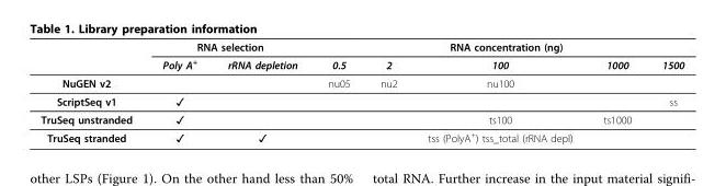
<table><thead><tr><td rowspan="2"></td><td colspan="2">RNA selection</td><td colspan="5">RNA concentration (ng)</td></tr><tr><td>Poly A<sup>+</sup></td><td>rRNA depletion</td><td>0.5</td><td>2</td><td>100</td><td>1000</td><td>1500</td></tr></thead><tbody><tr><td>NuGEN v2</td><td></td><td></td><td>nu05</td><td>nu2</td><td>nu100</td><td></td><td></td></tr><tr><td>ScriptSeq v1</td><td>✓</td><td></td><td></td><td></td><td></td><td></td><td>ss</td></tr><tr><td>TruSeq unstranded</td><td>✓</td><td></td><td></td><td></td><td>ts100</td><td>ts1000</td><td></td></tr><tr><td>TruSeq stranded</td><td>✓</td><td>✓</td><td></td><td></td><td>tss (PolyA<sup>+</sup>) tss_total (rRNA depl)</td><td></td><td></td></tr></tbody></table>